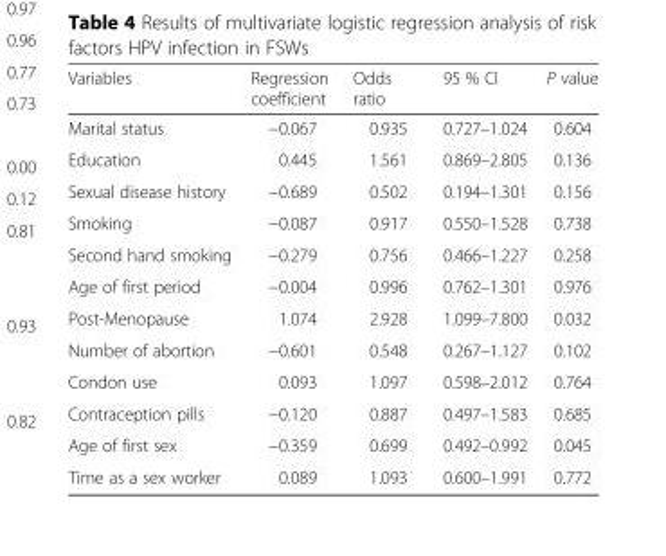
<table><thead><tr><td>Variables</td><td>Regression coefficient</td><td>Odds ratio</td><td>95 % CI</td><td>P value</td></tr></thead><tbody><tr><td>Marital status</td><td>−0.067</td><td>0.935</td><td>0.727–1.024</td><td>0.604</td></tr><tr><td>Education</td><td>0.445</td><td>1.561</td><td>0.869–2.805</td><td>0.136</td></tr><tr><td>Sexual disease history</td><td>−0.689</td><td>0.502</td><td>0.194–1.301</td><td>0.156</td></tr><tr><td>Smoking</td><td>−0.087</td><td>0.917</td><td>0.550–1.528</td><td>0.738</td></tr><tr><td>Second hand smoking</td><td>−0.279</td><td>0.756</td><td>0.466–1.227</td><td>0.258</td></tr><tr><td>Age of first period</td><td>−0.004</td><td>0.996</td><td>0.762–1.301</td><td>0.976</td></tr><tr><td>Post-Menopause</td><td>1.074</td><td>2.928</td><td>1.099–7.800</td><td>0.032</td></tr><tr><td>Number of abortion</td><td>−0.601</td><td>0.548</td><td>0.267–1.127</td><td>0.102</td></tr><tr><td>Condon use</td><td>0.093</td><td>1.097</td><td>0.598–2.012</td><td>0.764</td></tr><tr><td>Contraception pills</td><td>−0.120</td><td>0.887</td><td>0.497–1.583</td><td>0.685</td></tr><tr><td>Age of first sex</td><td>−0.359</td><td>0.699</td><td>0.492–0.992</td><td>0.045</td></tr><tr><td>Time as a sex worker</td><td>0.089</td><td>1.093</td><td>0.600–1.991</td><td>0.772</td></tr></tbody></table>